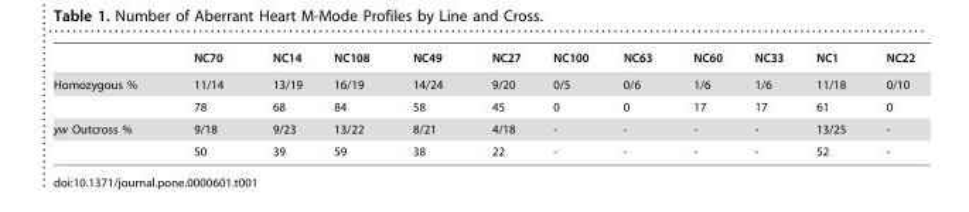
<table><thead><tr><td></td><td>NC70</td><td>NC14</td><td>NC108</td><td>NC49</td><td>NC27</td><td>NC100</td><td>NC63</td><td>NC60</td><td>NC33</td><td>NC1</td><td>NC22</td></tr></thead><tbody><tr><td rowspan="2">Homozygous %</td><td>11/14</td><td>13/19</td><td>16/19</td><td>14/24</td><td>9/20</td><td>0/5</td><td>0/6</td><td>1/6</td><td>1/6</td><td>11/18</td><td>0/10</td></tr><tr><td>78</td><td>68</td><td>84</td><td>58</td><td>45</td><td>0</td><td>0</td><td>17</td><td>17</td><td>61</td><td>0</td></tr><tr><td rowspan="2">yw Outcross %</td><td>9/18</td><td>9/23</td><td>13/22</td><td>8/21</td><td>4/18</td><td>-</td><td>-</td><td>-</td><td>-</td><td>13/25</td><td>-</td></tr><tr><td>50</td><td>39</td><td>59</td><td>38</td><td>22</td><td>-</td><td>-</td><td>-</td><td>-</td><td>52</td><td>-</td></tr></tbody></table>